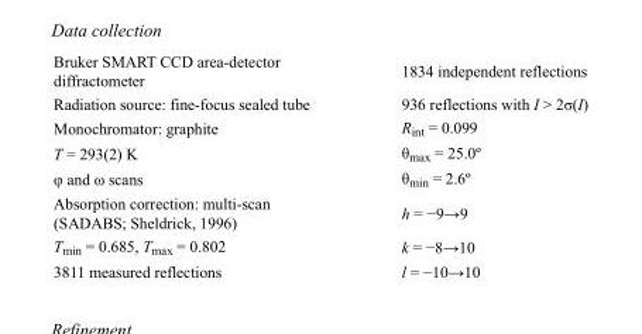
<table><tbody><tr><td>Bruker SMART CCD area-detector diffractometer</td><td>1834 independent reflections</td></tr><tr><td>Radiation source: fine-focus sealed tube</td><td>936 reflections with I &gt; 2σ(I)</td></tr><tr><td>Monochromator: graphite</td><td>R<sub>int</sub> = 0.099</td></tr><tr><td>T = 293(2) K</td><td>θ<sub>max</sub> = 25.0º</td></tr><tr><td>φ and ω scans</td><td>θ<sub>min</sub> = 2.6º</td></tr><tr><td>Absorption correction: multi-scan (SADABS; Sheldrick, 1996)</td><td>h = −9→9</td></tr><tr><td>T<sub>min</sub> = 0.685, T<sub>max</sub> = 0.802</td><td>k = −8→10</td></tr><tr><td>3811 measured reflections</td><td>l = −10→10</td></tr></tbody></table>